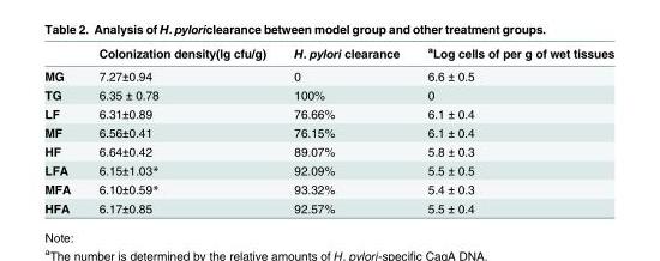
<table><thead><tr><td></td><td>Colonization density(Ig cfu/g)</td><td>H. pylori clearance</td><td><sup>a</sup>Log cells of per g of wet tissues</td></tr></thead><tbody><tr><td>MG</td><td>7.27±0.94</td><td>0</td><td>6.6 ± 0.5</td></tr><tr><td>TG</td><td>6.35 ± 0.78</td><td>100%</td><td>0</td></tr><tr><td>LF</td><td>6.31±0.89</td><td>76.66%</td><td>6.1 ± 0.4</td></tr><tr><td>MF</td><td>6.56±0.41</td><td>76.15%</td><td>6.1 ± 0.4</td></tr><tr><td>HF</td><td>6.64±0.42</td><td>89.07%</td><td>5.8 ± 0.3</td></tr><tr><td>LFA</td><td>6.15±1.03*</td><td>92.09%</td><td>5.5 ± 0.5</td></tr><tr><td>MFA</td><td>6.10±0.59*</td><td>93.32%</td><td>5.4 ± 0.3</td></tr><tr><td>HFA</td><td>6.17±0.85</td><td>92.57%</td><td>5.5 ± 0.4</td></tr></tbody></table>